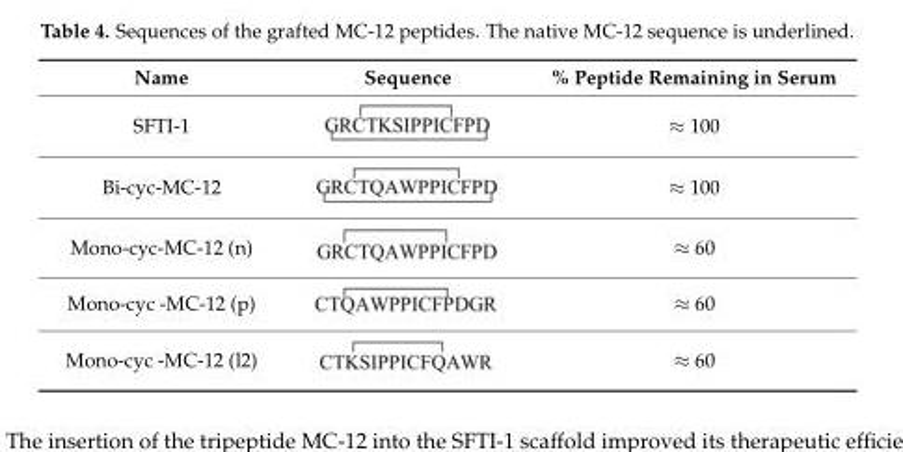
<table><thead><tr><td>Name</td><td>Sequence</td><td>% Peptide Remaining in Serum</td></tr></thead><tbody><tr><td>SFTI-1</td><td></td><td>≈ 100</td></tr><tr><td>Bi-cyc-MC-12</td><td></td><td>≈ 100</td></tr><tr><td>Mono-cyc-MC-12 (n)</td><td></td><td>≈ 60</td></tr><tr><td>Mono-cyc -MC-12 (p)</td><td></td><td>≈ 60</td></tr><tr><td>Mono-cyc -MC-12 (l2)</td><td></td><td>≈ 60</td></tr></tbody></table>